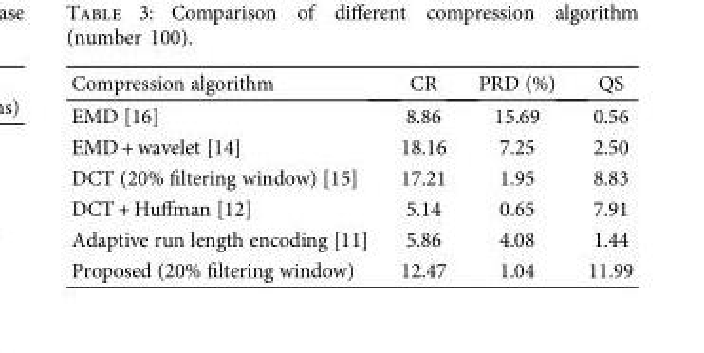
<table><thead><tr><td>Compression algorithm</td><td>CR</td><td>PRD (%)</td><td>QS</td></tr></thead><tbody><tr><td>EMD [16]</td><td>8.86</td><td>15.69</td><td>0.56</td></tr><tr><td>EMD + wavelet [14]</td><td>18.16</td><td>7.25</td><td>2.50</td></tr><tr><td>DCT (20% filtering window) [15]</td><td>17.21</td><td>1.95</td><td>8.83</td></tr><tr><td>DCT + Huffman [12]</td><td>5.14</td><td>0.65</td><td>7.91</td></tr><tr><td>Adaptive run length encoding [11]</td><td>5.86</td><td>4.08</td><td>1.44</td></tr><tr><td>Proposed (20% filtering window)</td><td>12.47</td><td>1.04</td><td>11.99</td></tr></tbody></table>